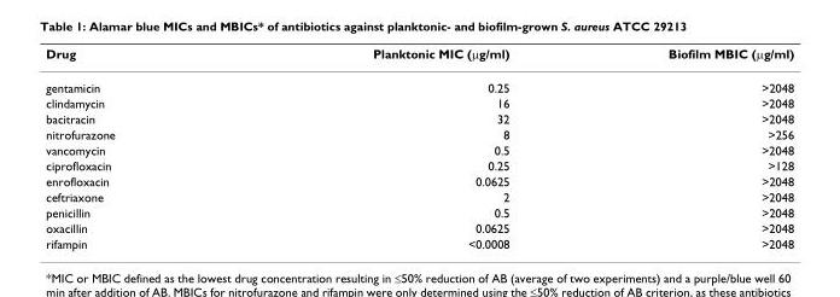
<table><thead><tr><td>Drug</td><td>Planktonic MIC (μg/ml)</td><td>Biofilm MBIC (μg/ml)</td></tr></thead><tbody><tr><td>gentamicin</td><td>0.25</td><td>&gt;2048</td></tr><tr><td>clindamycin</td><td>16</td><td>&gt;2048</td></tr><tr><td>bacitracin</td><td>32</td><td>&gt;2048</td></tr><tr><td>nitrofurazone</td><td>8</td><td>&gt;256</td></tr><tr><td>vancomycin</td><td>0.5</td><td>&gt;2048</td></tr><tr><td>ciprofloxacin</td><td>0.25</td><td>&gt;128</td></tr><tr><td>enrofloxacin</td><td>0.0625</td><td>&gt;2048</td></tr><tr><td>ceftriaxone</td><td>2</td><td>&gt;2048</td></tr><tr><td>penicillin</td><td>0.5</td><td>&gt;2048</td></tr><tr><td>oxacillin</td><td>0.0625</td><td>&gt;2048</td></tr><tr><td>rifampin</td><td>&lt;0.0008</td><td>&gt;2048</td></tr></tbody></table>